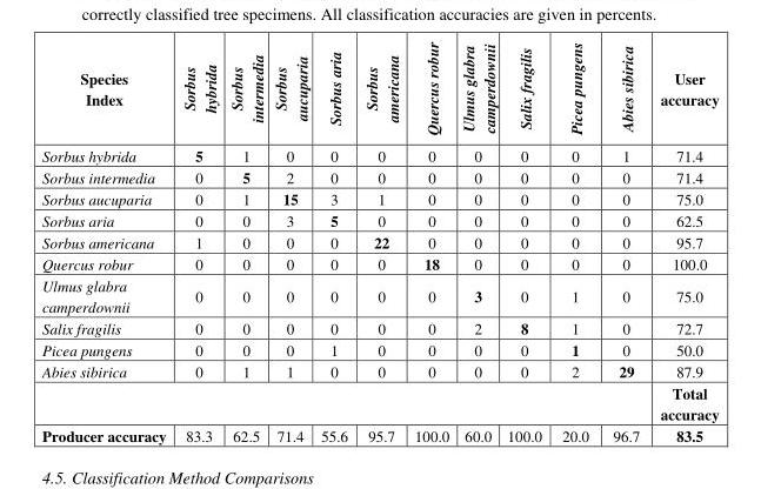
<table><thead><tr><td>Species Index</td><td>Sorbus hybrida</td><td>Sorbus intermedia</td><td>Sorbus aucuparia</td><td>Sorbus aria</td><td>Sorbus americana</td><td>Quercus robur</td><td>Ulmus glabra camperdownii</td><td>Salix fragilis</td><td>Picea pungens</td><td>Abies sibirica</td><td>User accuracy</td></tr></thead><tbody><tr><td>Sorbus hybrida</td><td>5</td><td>1</td><td>0</td><td>0</td><td>0</td><td>0</td><td>0</td><td>0</td><td>0</td><td>1</td><td>71.4</td></tr><tr><td>Sorbus intermedia</td><td>0</td><td>5</td><td>2</td><td>0</td><td>0</td><td>0</td><td>0</td><td>0</td><td>0</td><td>0</td><td>71.4</td></tr><tr><td>Sorbus aucuparia</td><td>0</td><td>1</td><td>15</td><td>3</td><td>1</td><td>0</td><td>0</td><td>0</td><td>0</td><td>0</td><td>75.0</td></tr><tr><td>Sorbus aria</td><td>0</td><td>0</td><td>3</td><td>5</td><td>0</td><td>0</td><td>0</td><td>0</td><td>0</td><td>0</td><td>62.5</td></tr><tr><td>Sorbus americana</td><td>1</td><td>0</td><td>0</td><td>0</td><td>22</td><td>0</td><td>0</td><td>0</td><td>0</td><td>0</td><td>95.7</td></tr><tr><td>Quercus robur</td><td>0</td><td>0</td><td>0</td><td>0</td><td>0</td><td>18</td><td>0</td><td>0</td><td>0</td><td>0</td><td>100.0</td></tr><tr><td>Ulmus glabra camperdownii</td><td>0</td><td>0</td><td>0</td><td>0</td><td>0</td><td>0</td><td>3</td><td>0</td><td>1</td><td>0</td><td>75.0</td></tr><tr><td>Salix fragilis</td><td>0</td><td>0</td><td>0</td><td>0</td><td>0</td><td>0</td><td>2</td><td>8</td><td>1</td><td>0</td><td>72.7</td></tr><tr><td>Picea pungens</td><td>0</td><td>0</td><td>0</td><td>1</td><td>0</td><td>0</td><td>0</td><td>0</td><td>1</td><td>0</td><td>50.0</td></tr><tr><td>Abies sibirica</td><td>0</td><td>1</td><td>1</td><td>0</td><td>0</td><td>0</td><td>0</td><td>0</td><td>2</td><td>29</td><td>87.9</td></tr><tr><td colspan="11"></td><td>Total accuracy</td></tr><tr><td>Producer accuracy</td><td>83.3</td><td>62.5</td><td>71.4</td><td>55.6</td><td>95.7</td><td>100.0</td><td>60.0</td><td>100.0</td><td>20.0</td><td>96.7</td><td>83.5</td></tr></tbody></table>